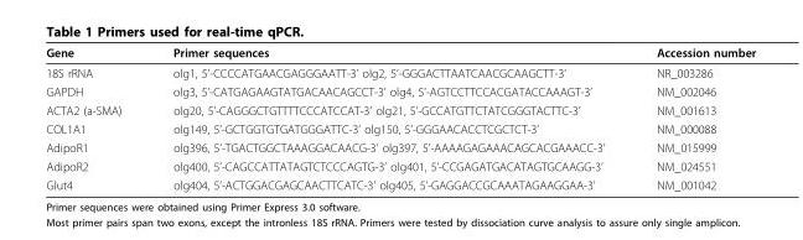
<table><thead><tr><td>Gene</td><td>Primer sequences</td><td>Accession number</td></tr></thead><tbody><tr><td>18S rRNA</td><td>olg1, 5’-CCCCATGAACGAGGGAATT-3’ olg2, 5’-GGGACTTAATCAACGCAAGCTT-3’</td><td>NR_003286</td></tr><tr><td>GAPDH</td><td>olg3, 5’-CATGAGAAGTATGACAACAGCCT-3’ olg4, 5’-AGTCCTTCCACGATACCAAAGT-3’</td><td>NM_002046</td></tr><tr><td>ACTA2 (a-SMA)</td><td>olg20, 5’-CAGGGCTGTTTTCCCATCCAT-3’ olg21, 5’-GCCATGTTCTATCGGGTACTTC-3’</td><td>NM_001613</td></tr><tr><td>COL1A1</td><td>olg149, 5’-GCTGGTGTGATGGGATTC-3’ olg150, 5’-GGGAACACCTCGCTCT-3’</td><td>NM_000088</td></tr><tr><td>AdipoR1</td><td>olg396, 5’-TGACTGGCTAAAGGACAACG-3’ olg397, 5’-AAAAGAGAAACAGCACGAAACC-3’</td><td>NM_015999</td></tr><tr><td>AdipoR2</td><td>olg400, 5’-CAGCCATTATAGTCTCCCAGTG-3’ olg401, 5’-CCGAGATGACATAGTGCAAGG-3’</td><td>NM_024551</td></tr><tr><td>Glut4</td><td>olg404, 5’-ACTGGACGAGCAACTTCATC-3’ olg405, 5’-GAGGACCGCAAATAGAAGGAA-3’</td><td>NM_001042</td></tr></tbody></table>